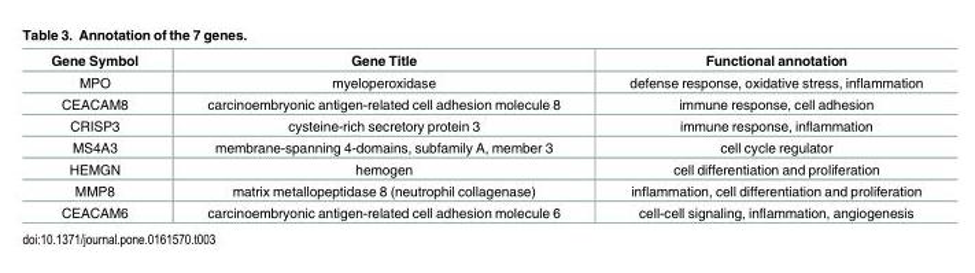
<table><thead><tr><td>Gene Symbol</td><td>Gene Title</td><td>Functional annotation</td></tr></thead><tbody><tr><td>MPO</td><td>myeloperoxidase</td><td>defense response, oxidative stress, inflammation</td></tr><tr><td>CEACAM8</td><td>carcinoembryonic antigen-related cell adhesion molecule 8</td><td>immune response, cell adhesion</td></tr><tr><td>CRISP3</td><td>cysteine-rich secretory protein 3</td><td>immune response, inflammation</td></tr><tr><td>MS4A3</td><td>membrane-spanning 4-domains, subfamily A, member 3</td><td>cell cycle regulator</td></tr><tr><td>HEMGN</td><td>hemogen</td><td>cell differentiation and proliferation</td></tr><tr><td>MMP8</td><td>matrix metallopeptidase 8 (neutrophil collagenase)</td><td>inflammation, cell differentiation and proliferation</td></tr><tr><td>CEACAM6</td><td>carcinoembryonic antigen-related cell adhesion molecule 6</td><td>cell-cell signaling, inflammation, angiogenesis</td></tr></tbody></table>